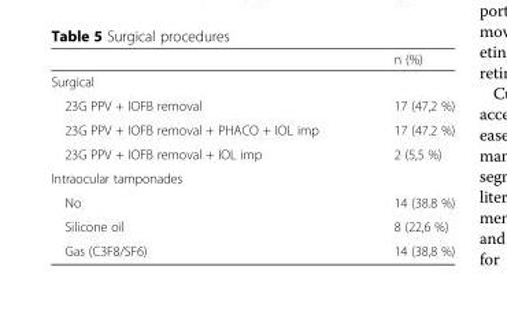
<table><thead><tr><td></td><td>n (%)</td></tr></thead><tbody><tr><td colspan="2">Surgical</td></tr><tr><td>23G PPV + IOFB removal</td><td>17 (47,2 %)</td></tr><tr><td>23G PPV + IOFB removal + PHACO + IOL imp</td><td>17 (47.2 %)</td></tr><tr><td>23G PPV + IOFB removal + IOL imp</td><td>2 (5,5 %)</td></tr><tr><td colspan="2">Intraocular tamponades</td></tr><tr><td>No</td><td>14 (38.8 %)</td></tr><tr><td>Silicone oil</td><td>8 (22,6 %)</td></tr><tr><td>Gas (C3F8/SF6)</td><td>14 (38,8 %)</td></tr></tbody></table>